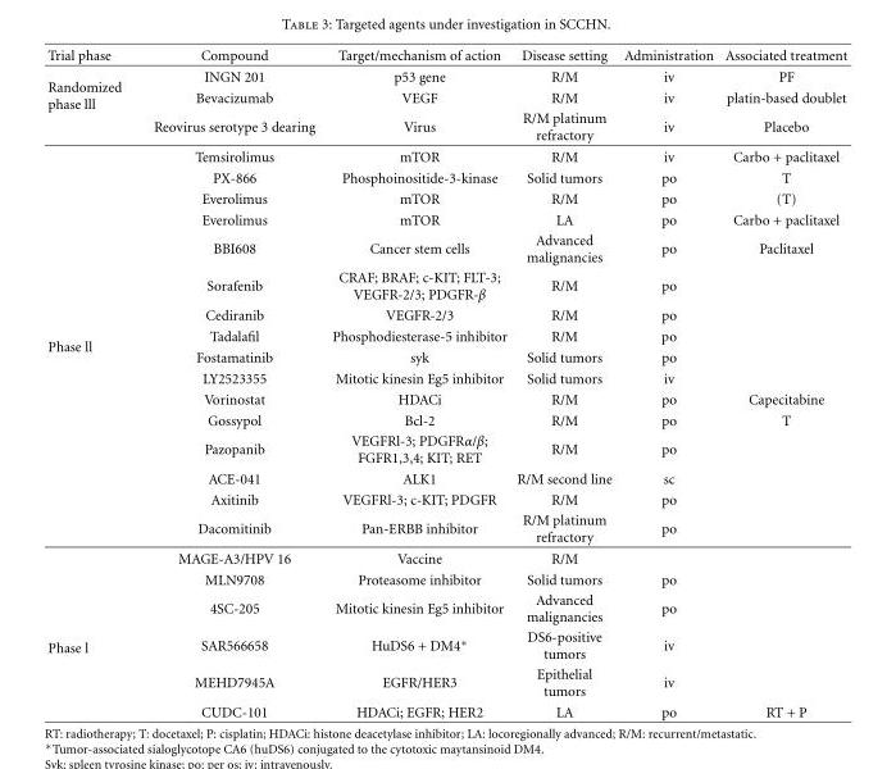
<table><thead><tr><td>Trial phase</td><td>Compound</td><td>Target/mechanism of action</td><td>Disease setting</td><td>Administration</td><td>Associated treatment</td></tr></thead><tbody><tr><td rowspan="3">Randomized phase lll</td><td>INGN 201</td><td>p53 gene</td><td>R/M</td><td>iv</td><td>PF</td></tr><tr><td>Bevacizumab</td><td>VEGF</td><td>R/M</td><td>iv</td><td>platin-based doublet</td></tr><tr><td>Reovirus serotype 3 dearing</td><td>Virus</td><td>R/M platinum refractory</td><td>iv</td><td>Placebo</td></tr><tr><td rowspan="16">Phase ll</td><td>Temsirolimus</td><td>mTOR</td><td>R/M</td><td>iv</td><td>Carbo + paclitaxel</td></tr><tr><td>PX-866</td><td>Phosphoinositide-3-kinase</td><td>Solid tumors</td><td>po</td><td>T</td></tr><tr><td>Everolimus</td><td>mTOR</td><td>R/M</td><td>po</td><td>(T)</td></tr><tr><td>Everolimus</td><td>mTOR</td><td>LA</td><td>po</td><td>Carbo + paclitaxel</td></tr><tr><td>BBI608</td><td>Cancer stem cells</td><td>Advanced malignancies</td><td>po</td><td>Paclitaxel</td></tr><tr><td>Sorafenib</td><td>CRAF; BRAF; c-KIT; FLT-3; VEGFR-2/3; PDGFR-β</td><td>R/M</td><td>po</td><td></td></tr><tr><td>Cediranib</td><td>VEGFR-2/3</td><td>R/M</td><td>po</td><td></td></tr><tr><td>Tadalafil</td><td>Phosphodiesterase-5 inhibitor</td><td>R/M</td><td>po</td><td></td></tr><tr><td>Fostamatinib</td><td>syk</td><td>Solid tumors</td><td>po</td><td></td></tr><tr><td>LY2523355</td><td>Mitotic kinesin Eg5 inhibitor</td><td>Solid tumors</td><td>iv</td><td></td></tr><tr><td>Vorinostat</td><td>HDACi</td><td>R/M</td><td>po</td><td>Capecitabine</td></tr><tr><td>Gossypol</td><td>Bcl-2</td><td>R/M</td><td>po</td><td>T</td></tr><tr><td>Pazopanib</td><td>VEGFRl-3; PDGFRα/β; FGFR1,3,4; KIT; RET</td><td>R/M</td><td>po</td><td></td></tr><tr><td>ACE-041</td><td>ALK1</td><td>R/M second line</td><td>sc</td><td></td></tr><tr><td>Axitinib</td><td>VEGFRl-3; c-KIT; PDGFR</td><td>R/M</td><td>po</td><td></td></tr><tr><td>Dacomitinib</td><td>Pan-ERBB inhibitor</td><td>R/M platinum refractory</td><td>po</td><td></td></tr><tr><td rowspan="6">Phase l</td><td>MAGE-A3/HPV 16</td><td>Vaccine</td><td>R/M</td><td></td><td></td></tr><tr><td>MLN9708</td><td>Proteasome inhibitor</td><td>Solid tumors</td><td>po</td><td></td></tr><tr><td>4SC-205</td><td>Mitotic kinesin Eg5 inhibitor</td><td>Advanced malignancies</td><td>po</td><td></td></tr><tr><td>SAR566658</td><td>HuDS6 + DM4∗</td><td>DS6-positive tumors</td><td>iv</td><td></td></tr><tr><td>MEHD7945A</td><td>EGFR/HER3</td><td>Epithelial tumors</td><td>iv</td><td></td></tr><tr><td>CUDC-101</td><td>HDACi; EGFR; HER2</td><td>LA</td><td>po</td><td>RT + P</td></tr></tbody></table>